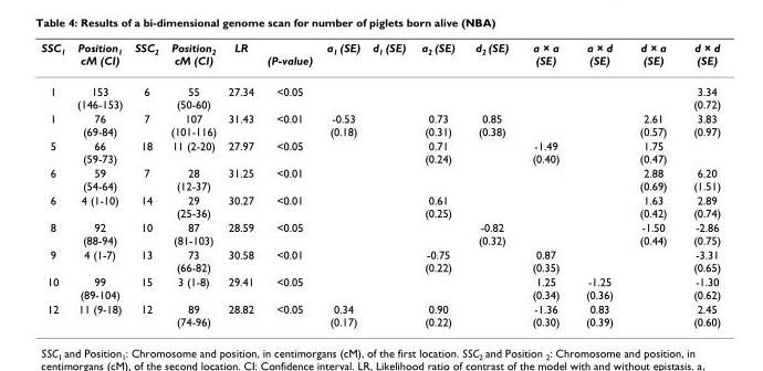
<table><thead><tr><td>SSC<sub>1</sub></td><td>Position<sub>1</sub> cM (CI)</td><td>SSC<sub>2</sub></td><td>Position<sub>2</sub> cM (CI)</td><td>LR</td><td>(P-value)</td><td>a<sub>1</sub> (SE)</td><td>d<sub>1</sub> (SE)</td><td>a<sub>2</sub> (SE)</td><td>d<sub>2</sub> (SE)</td><td>a × a (SE)</td><td>a × d (SE)</td><td>d × a (SE)</td><td>d × d (SE)</td></tr></thead><tbody><tr><td>1</td><td>153 (146-153)</td><td>6</td><td>55 (50-60)</td><td>27.34</td><td>&lt;0.05</td><td></td><td></td><td></td><td></td><td></td><td></td><td></td><td>3.34 (0.72)</td></tr><tr><td>1</td><td>76 (69-84)</td><td>7</td><td>107 (101-116)</td><td>31.43</td><td>&lt;0.01</td><td>-0.53 (0.18)</td><td></td><td>0.73 (0.31)</td><td>0.85 (0.38)</td><td></td><td></td><td>2.61 (0.57)</td><td>3.83 (0.97)</td></tr><tr><td>5</td><td>66 (59-73)</td><td>18</td><td>11 (2-20)</td><td>27.97</td><td>&lt;0.05</td><td></td><td></td><td>0.71 (0.24)</td><td></td><td>-1.49 (0.40)</td><td></td><td>1.75 (0.47)</td><td></td></tr><tr><td>6</td><td>59 (54-64)</td><td>7</td><td>28 (12-37)</td><td>31.25</td><td>&lt;0.01</td><td></td><td></td><td></td><td></td><td></td><td></td><td>2.88 (0.69)</td><td>6.20 (1.51)</td></tr><tr><td>6</td><td>4 (1-10)</td><td>14</td><td>29 (25-36)</td><td>30.27</td><td>&lt;0.01</td><td></td><td></td><td>0.61 (0.25)</td><td></td><td></td><td></td><td>1.63 (0.42)</td><td>2.89 (0.74)</td></tr><tr><td>8</td><td>92 (88-94)</td><td>10</td><td>87 (81-103)</td><td>28.59</td><td>&lt;0.05</td><td></td><td></td><td></td><td>-0.82 (0.32)</td><td></td><td></td><td>-1.50 (0.44)</td><td>-2.86 (0.75)</td></tr><tr><td>9</td><td>4 (1-7)</td><td>13</td><td>73 (66-82)</td><td>30.58</td><td>&lt;0.01</td><td></td><td></td><td>-0.75 (0.22)</td><td></td><td>0.87 (0.35)</td><td></td><td></td><td>-3.31 (0.65)</td></tr><tr><td>10</td><td>99 (89-104)</td><td>15</td><td>3 (1-8)</td><td>29.41</td><td>&lt;0.05</td><td></td><td></td><td></td><td></td><td>1.25 (0.34)</td><td>-1.25 (0.36)</td><td></td><td>-1.30 (0.62)</td></tr><tr><td>12</td><td>11 (9-18)</td><td>12</td><td>89 (74-96)</td><td>28.82</td><td>&lt;0.05</td><td>0.34 (0.17)</td><td></td><td>0.90 (0.22)</td><td></td><td>-1.36 (0.30)</td><td>0.83 (0.39)</td><td></td><td>2.45 (0.60)</td></tr></tbody></table>